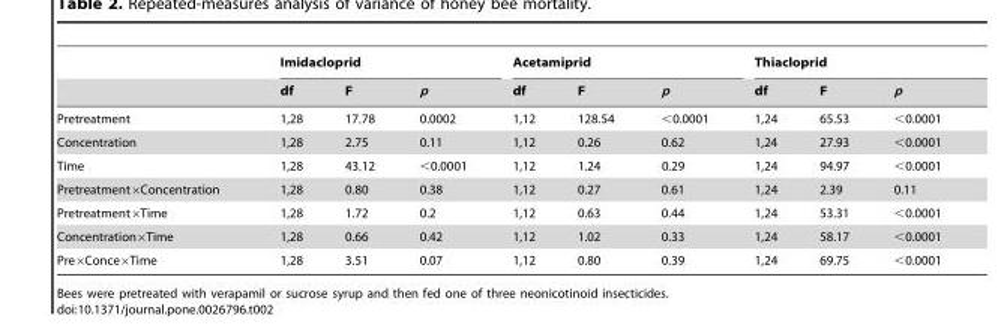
<table><thead><tr><td rowspan="2"></td><td colspan="3">Imidacloprid</td><td colspan="3">Acetamiprid</td><td colspan="3">Thiacloprid</td></tr><tr><td>df</td><td>F</td><td>p</td><td>df</td><td>F</td><td>p</td><td>df</td><td>F</td><td>p</td></tr></thead><tbody><tr><td>Pretreatment</td><td>1,28</td><td>17.78</td><td>0.0002</td><td>1,12</td><td>128.54</td><td>&lt;0.0001</td><td>1,24</td><td>65.53</td><td>&lt;0.0001</td></tr><tr><td>Concentration</td><td>1,28</td><td>2.75</td><td>0.11</td><td>1,12</td><td>0.26</td><td>0.62</td><td>1,24</td><td>27.93</td><td>&lt;0.0001</td></tr><tr><td>Time</td><td>1,28</td><td>43.12</td><td>&lt;0.0001</td><td>1,12</td><td>1.24</td><td>0.29</td><td>1,24</td><td>94.97</td><td>&lt;0.0001</td></tr><tr><td>Pretreatment×Concentration</td><td>1,28</td><td>0.80</td><td>0.38</td><td>1,12</td><td>0.27</td><td>0.61</td><td>1,24</td><td>2.39</td><td>0.11</td></tr><tr><td>Pretreatment×Time</td><td>1,28</td><td>1.72</td><td>0.2</td><td>1,12</td><td>0.63</td><td>0.44</td><td>1,24</td><td>53.31</td><td>&lt;0.0001</td></tr><tr><td>Concentration×Time</td><td>1,28</td><td>0.66</td><td>0.42</td><td>1,12</td><td>1.02</td><td>0.33</td><td>1,24</td><td>58.17</td><td>&lt;0.0001</td></tr><tr><td>Pre×Conce×Time</td><td>1,28</td><td>3.51</td><td>0.07</td><td>1,12</td><td>0.80</td><td>0.39</td><td>1,24</td><td>69.75</td><td>&lt;0.0001</td></tr></tbody></table>